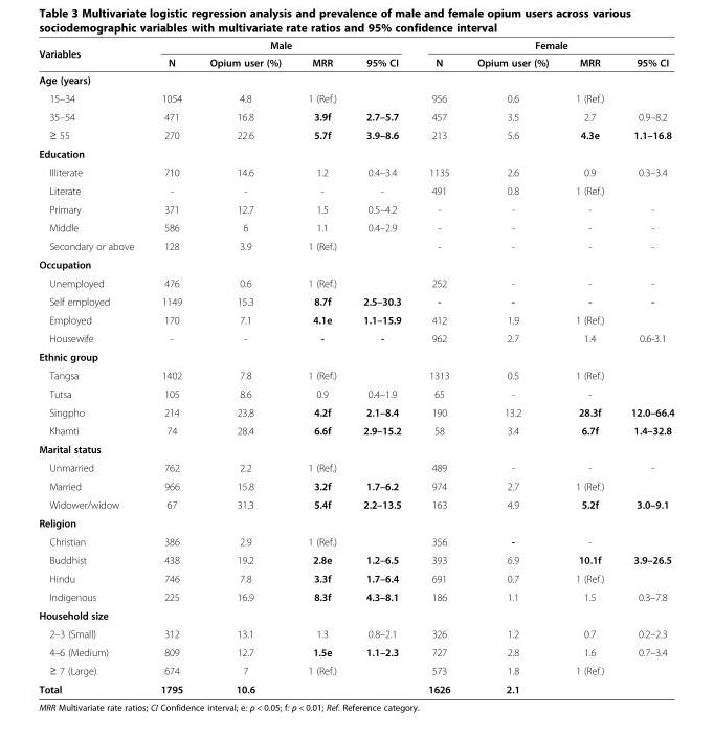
<table><thead><tr><td rowspan="2">Variables</td><td colspan="4">Male</td><td colspan="4">Female</td></tr><tr><td>N</td><td>Opium user (%)</td><td>MRR</td><td>95% CI</td><td>N</td><td>Opium user (%)</td><td>MRR</td><td>95% CI</td></tr></thead><tbody><tr><td colspan="9">Age (years)</td></tr><tr><td>15–34</td><td>1054</td><td>4.8</td><td>1 (Ref.)</td><td></td><td>956</td><td>0.6</td><td>1 (Ref.)</td><td></td></tr><tr><td>35–54</td><td>471</td><td>16.8</td><td>3.9f</td><td>2.7–5.7</td><td>457</td><td>3.5</td><td>2.7</td><td>0.9–8.2</td></tr><tr><td>≥ 55</td><td>270</td><td>22.6</td><td>5.7f</td><td>3.9–8.6</td><td>213</td><td>5.6</td><td>4.3e</td><td>1.1–16.8</td></tr><tr><td colspan="9">Education</td></tr><tr><td>Illiterate</td><td>710</td><td>14.6</td><td>1.2</td><td>0.4–3.4</td><td>1135</td><td>2.6</td><td>0.9</td><td>0.3–3.4</td></tr><tr><td>Literate</td><td>-</td><td>-</td><td>-</td><td>-</td><td>491</td><td>0.8</td><td>1 (Ref.)</td><td></td></tr><tr><td>Primary</td><td>371</td><td>12.7</td><td>1.5</td><td>0.5–4.2</td><td>-</td><td>-</td><td>-</td><td>-</td></tr><tr><td>Middle</td><td>586</td><td>6</td><td>1.1</td><td>0.4–2.9</td><td>-</td><td>-</td><td>-</td><td>-</td></tr><tr><td>Secondary or above</td><td>128</td><td>3.9</td><td>1 (Ref.)</td><td></td><td>-</td><td>-</td><td>-</td><td>-</td></tr><tr><td colspan="9">Occupation</td></tr><tr><td>Unemployed</td><td>476</td><td>0.6</td><td>1 (Ref.)</td><td></td><td>252</td><td>-</td><td>-</td><td>-</td></tr><tr><td>Self employed</td><td>1149</td><td>15.3</td><td>8.7f</td><td>2.5–30.3</td><td>-</td><td>-</td><td>-</td><td>-</td></tr><tr><td>Employed</td><td>170</td><td>7.1</td><td>4.1e</td><td>1.1–15.9</td><td>412</td><td>1.9</td><td>1 (Ref.)</td><td></td></tr><tr><td>Housewife</td><td>-</td><td>-</td><td>-</td><td>-</td><td>962</td><td>2.7</td><td>1.4</td><td>0.6-3.1</td></tr><tr><td colspan="9">Ethnic group</td></tr><tr><td>Tangsa</td><td>1402</td><td>7.8</td><td>1 (Ref.)</td><td></td><td>1313</td><td>0.5</td><td>1 (Ref.)</td><td></td></tr><tr><td>Tutsa</td><td>105</td><td>8.6</td><td>0.9</td><td>0.4–1.9</td><td>65</td><td>-</td><td>-</td><td></td></tr><tr><td>Singpho</td><td>214</td><td>23.8</td><td>4.2f</td><td>2.1–8.4</td><td>190</td><td>13.2</td><td>28.3f</td><td>12.0–66.4</td></tr><tr><td>Khamti</td><td>74</td><td>28.4</td><td>6.6f</td><td>2.9–15.2</td><td>58</td><td>3.4</td><td>6.7f</td><td>1.4–32.8</td></tr><tr><td colspan="9">Marital status</td></tr><tr><td>Unmarried</td><td>762</td><td>2.2</td><td>1 (Ref.)</td><td></td><td>489</td><td>-</td><td>-</td><td>-</td></tr><tr><td>Married</td><td>966</td><td>15.8</td><td>3.2f</td><td>1.7–6.2</td><td>974</td><td>2.7</td><td>1 (Ref.)</td><td></td></tr><tr><td>Widower/widow</td><td>67</td><td>31.3</td><td>5.4f</td><td>2.2–13.5</td><td>163</td><td>4.9</td><td>5.2f</td><td>3.0–9.1</td></tr><tr><td colspan="9">Religion</td></tr><tr><td>Christian</td><td>386</td><td>2.9</td><td>1 (Ref.)</td><td></td><td>356</td><td>-</td><td>-</td><td></td></tr><tr><td>Buddhist</td><td>438</td><td>19.2</td><td>2.8e</td><td>1.2–6.5</td><td>393</td><td>6.9</td><td>10.1f</td><td>3.9–26.5</td></tr><tr><td>Hindu</td><td>746</td><td>7.8</td><td>3.3f</td><td>1.7–6.4</td><td>691</td><td>0.7</td><td>1 (Ref.)</td><td></td></tr><tr><td>Indigenous</td><td>225</td><td>16.9</td><td>8.3f</td><td>4.3–8.1</td><td>186</td><td>1.1</td><td>1.5</td><td>0.3–7.8</td></tr><tr><td colspan="9">Household size</td></tr><tr><td>2–3 (Small)</td><td>312</td><td>13.1</td><td>1.3</td><td>0.8–2.1</td><td>326</td><td>1.2</td><td>0.7</td><td>0.2–2.3</td></tr><tr><td>4–6 (Medium)</td><td>809</td><td>12.7</td><td>1.5e</td><td>1.1–2.3</td><td>727</td><td>2.8</td><td>1.6</td><td>0.7–3.4</td></tr><tr><td>≥ 7 (Large)</td><td>674</td><td>7</td><td>1 (Ref.)</td><td></td><td>573</td><td>1.8</td><td>1 (Ref.)</td><td></td></tr><tr><td>Total</td><td>1795</td><td>10.6</td><td></td><td></td><td>1626</td><td>2.1</td><td></td><td></td></tr></tbody></table>